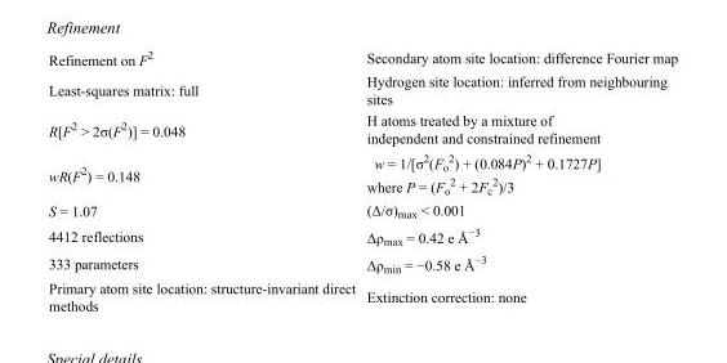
<table><tbody><tr><td>Refinement on F<sup>2</sup></td><td>Secondary atom site location: difference Fourier map</td></tr><tr><td>Least-squares matrix: full</td><td>Hydrogen site location: inferred from neighbouring sites</td></tr><tr><td>R[F<sup>2</sup> &gt; 2σ(F<sup>2</sup>)] = 0.048</td><td>H atoms treated by a mixture of independent and constrained refinement</td></tr><tr><td>wR(F<sup>2</sup>) = 0.148</td><td>w = 1/[σ<sup>2</sup>(F<sub>o</sub> <sup>2</sup>) + (0.084P)<sup>2</sup> + 0.1727P] where P = (F<sub>o</sub> <sup>2</sup> + 2F<sub>c</sub> <sup>2</sup>)/3</td></tr><tr><td>S = 1.07</td><td>(Δ/σ)<sub>max</sub> &lt; 0.001</td></tr><tr><td>4412 reflections</td><td>Δρ<sub>max</sub> = 0.42 e Å<sup>−3</sup></td></tr><tr><td>333 parameters</td><td>Δρ<sub>min</sub> = −0.58 e Å<sup>−3</sup></td></tr><tr><td>Primary atom site location: structure-invariant direct methods</td><td>Extinction correction: none</td></tr></tbody></table>